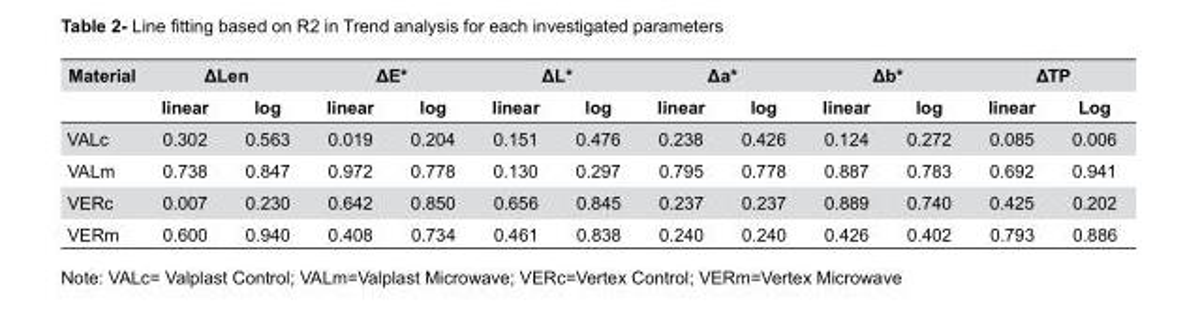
<table><thead><tr><td rowspan="2">Material</td><td colspan="2">ΔLen</td><td colspan="2">ΔΕ*</td><td colspan="2">ΔL*</td><td colspan="2">Δa*</td><td colspan="2">Δb*</td><td colspan="2">ΔΤP</td></tr><tr><td>linear</td><td>log</td><td>linear</td><td>log</td><td>linear</td><td>log</td><td>linear</td><td>log</td><td>linear</td><td>log</td><td>linear</td><td>Log</td></tr></thead><tbody><tr><td>VALc</td><td>0.302</td><td>0.563</td><td>0.019</td><td>0.204</td><td>0.151</td><td>0.476</td><td>0.238</td><td>0.426</td><td>0.124</td><td>0.272</td><td>0.085</td><td>0.006</td></tr><tr><td>VALm</td><td>0.738</td><td>0.847</td><td>0.972</td><td>0.778</td><td>0.130</td><td>0.297</td><td>0.795</td><td>0.778</td><td>0.887</td><td>0.783</td><td>0.692</td><td>0.941</td></tr><tr><td>VERc</td><td>0.007</td><td>0.230</td><td>0.642</td><td>0.850</td><td>0.656</td><td>0.845</td><td>0.237</td><td>0.237</td><td>0.889</td><td>0.740</td><td>0.425</td><td>0.202</td></tr><tr><td>VERm</td><td>0.600</td><td>0.940</td><td>0.408</td><td>0.734</td><td>0.461</td><td>0.838</td><td>0.240</td><td>0.240</td><td>0.426</td><td>0.402</td><td>0.793</td><td>0.886</td></tr></tbody></table>